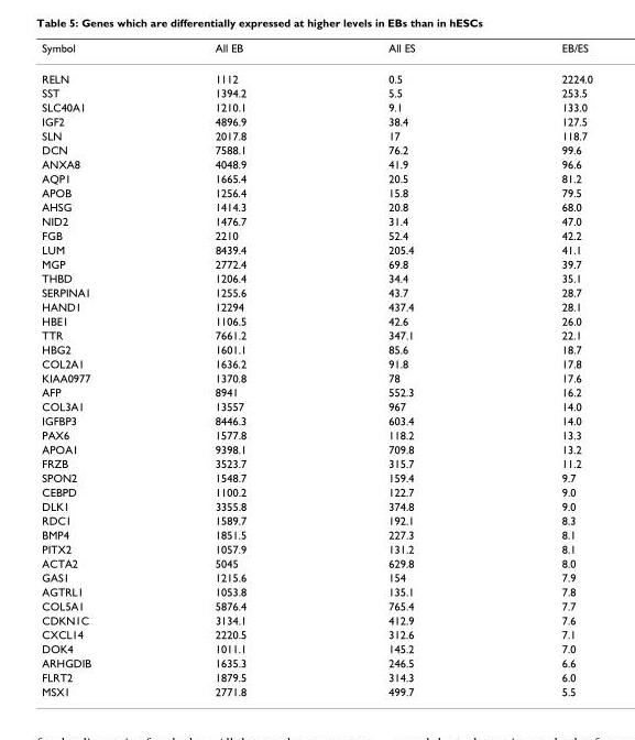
<table><thead><tr><td>Symbol</td><td>All EB</td><td>All ES</td><td>EB/ES</td></tr></thead><tbody><tr><td>RELN</td><td>1112</td><td>0.5</td><td>2224.0</td></tr><tr><td>SST</td><td>1394.2</td><td>5.5</td><td>253.5</td></tr><tr><td>SLC40A1</td><td>1210.1</td><td>9.1</td><td>133.0</td></tr><tr><td>IGF2</td><td>4896.9</td><td>38.4</td><td>127.5</td></tr><tr><td>SLN</td><td>2017.8</td><td>17</td><td>118.7</td></tr><tr><td>DCN</td><td>7588.1</td><td>76.2</td><td>99.6</td></tr><tr><td>ANXA8</td><td>4048.9</td><td>41.9</td><td>96.6</td></tr><tr><td>AQP1</td><td>1665.4</td><td>20.5</td><td>81.2</td></tr><tr><td>APOB</td><td>1256.4</td><td>15.8</td><td>79.5</td></tr><tr><td>AHSG</td><td>1414.3</td><td>20.8</td><td>68.0</td></tr><tr><td>NID2</td><td>1476.7</td><td>31.4</td><td>47.0</td></tr><tr><td>FGB</td><td>2210</td><td>52.4</td><td>42.2</td></tr><tr><td>LUM</td><td>8439.4</td><td>205.4</td><td>41.1</td></tr><tr><td>MGP</td><td>2772.4</td><td>69.8</td><td>39.7</td></tr><tr><td>THBD</td><td>1206.4</td><td>34.4</td><td>35.1</td></tr><tr><td>SERPINA1</td><td>1255.6</td><td>43.7</td><td>28.7</td></tr><tr><td>HAND1</td><td>12294</td><td>437.4</td><td>28.1</td></tr><tr><td>HBE1</td><td>1106.5</td><td>42.6</td><td>26.0</td></tr><tr><td>TTR</td><td>7661.2</td><td>347.1</td><td>22.1</td></tr><tr><td>HBG2</td><td>1601.1</td><td>85.6</td><td>18.7</td></tr><tr><td>COL2A1</td><td>1636.2</td><td>91.8</td><td>17.8</td></tr><tr><td>KIAA0977</td><td>1370.8</td><td>78</td><td>17.6</td></tr><tr><td>AFP</td><td>8941</td><td>552.3</td><td>16.2</td></tr><tr><td>COL3A1</td><td>13557</td><td>967</td><td>14.0</td></tr><tr><td>IGFBP3</td><td>8446.3</td><td>603.4</td><td>14.0</td></tr><tr><td>PAX6</td><td>1577.8</td><td>118.2</td><td>13.3</td></tr><tr><td>APOA1</td><td>9398.1</td><td>709.8</td><td>13.2</td></tr><tr><td>FRZB</td><td>3523.7</td><td>315.7</td><td>11.2</td></tr><tr><td>SPON2</td><td>1548.7</td><td>159.4</td><td>9.7</td></tr><tr><td>CEBPD</td><td>1100.2</td><td>122.7</td><td>9.0</td></tr><tr><td>DLK1</td><td>3355.8</td><td>374.8</td><td>9.0</td></tr><tr><td>RDC1</td><td>1589.7</td><td>192.1</td><td>8.3</td></tr><tr><td>BMP4</td><td>1851.5</td><td>227.3</td><td>8.1</td></tr><tr><td>PITX2</td><td>1057.9</td><td>131.2</td><td>8.1</td></tr><tr><td>ACTA2</td><td>5045</td><td>629.8</td><td>8.0</td></tr><tr><td>GAS1</td><td>1215.6</td><td>154</td><td>7.9</td></tr><tr><td>AGTRL1</td><td>1053.8</td><td>135.1</td><td>7.8</td></tr><tr><td>COL5A1</td><td>5876.4</td><td>765.4</td><td>7.7</td></tr><tr><td>CDKN1C</td><td>3134.1</td><td>412.9</td><td>7.6</td></tr><tr><td>CXCL14</td><td>2220.5</td><td>312.6</td><td>7.1</td></tr><tr><td>DOK4</td><td>1011.1</td><td>145.2</td><td>7.0</td></tr><tr><td>ARHGDIB</td><td>1635.3</td><td>246.5</td><td>6.6</td></tr><tr><td>FLRT2</td><td>1879.5</td><td>314.3</td><td>6.0</td></tr><tr><td>MSX1</td><td>2771.8</td><td>499.7</td><td>5.5</td></tr></tbody></table>